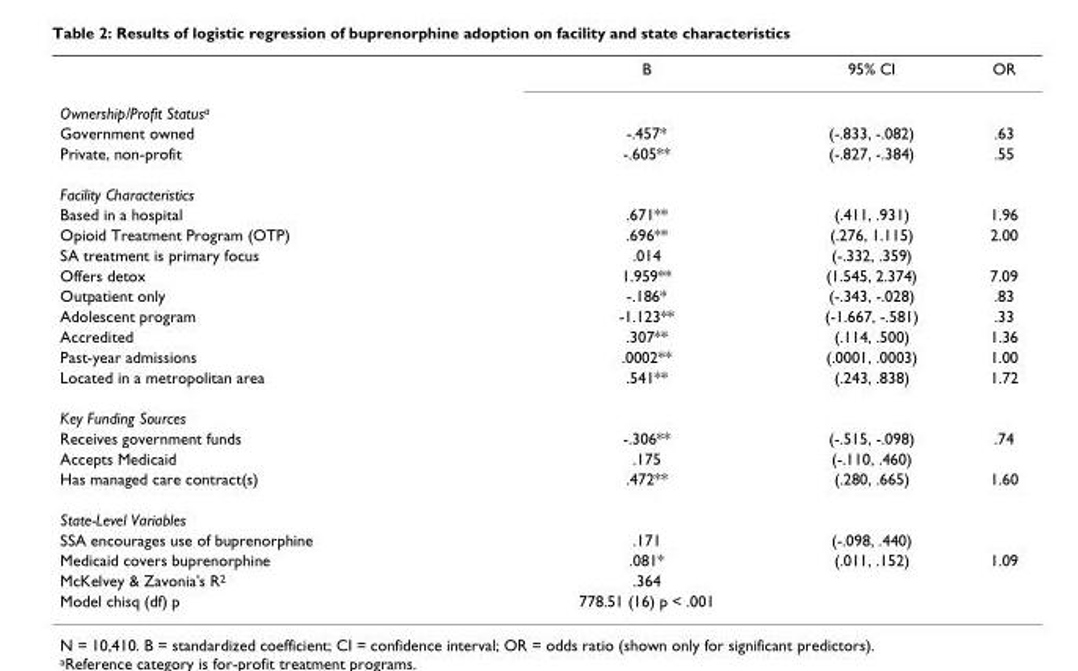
<table><thead><tr><td></td><td>B</td><td>95% CI</td><td>OR</td></tr></thead><tbody><tr><td colspan="4">Ownership/Profit Status<sup>a</sup></td></tr><tr><td>Government owned</td><td>-.457*</td><td>(-.833, -.082)</td><td>.63</td></tr><tr><td>Private, non-profit</td><td>-.605**</td><td>(-.827, -.384)</td><td>.55</td></tr><tr><td colspan="4">Facility Characteristics</td></tr><tr><td>Based in a hospital</td><td>.671**</td><td>(.411, .931)</td><td>1.96</td></tr><tr><td>Opioid Treatment Program (OTP)</td><td>.696**</td><td>(.276, 1.115)</td><td>2.00</td></tr><tr><td>SA treatment is primary focus</td><td>.014</td><td>(-.332, .359)</td><td></td></tr><tr><td>Offers detox</td><td>1.959**</td><td>(1.545, 2.374)</td><td>7.09</td></tr><tr><td>Outpatient only</td><td>-.186*</td><td>(-.343, -.028)</td><td>.83</td></tr><tr><td>Adolescent program</td><td>-1.123**</td><td>(-1.667, -.581)</td><td>.33</td></tr><tr><td>Accredited</td><td>.307**</td><td>(.114, .500)</td><td>1.36</td></tr><tr><td>Past-year admissions</td><td>.0002**</td><td>(.0001, .0003)</td><td>1.00</td></tr><tr><td>Located in a metropolitan area</td><td>.541**</td><td>(.243, .838)</td><td>1.72</td></tr><tr><td colspan="4">Key Funding Sources</td></tr><tr><td>Receives government funds</td><td>-.306**</td><td>(-.515, -.098)</td><td>.74</td></tr><tr><td>Accepts Medicaid</td><td>.175</td><td>(-.110, .460)</td><td></td></tr><tr><td>Has managed care contract(s)</td><td>.472**</td><td>(.280, .665)</td><td>1.60</td></tr><tr><td colspan="4">State-Level Variables</td></tr><tr><td>SSA encourages use of buprenorphine</td><td>.171</td><td>(-.098, .440)</td><td></td></tr><tr><td>Medicaid covers buprenorphine</td><td>.081*</td><td>(.011, .152)</td><td>1.09</td></tr><tr><td>McKelvey &amp; Zavonia&#x27;s R<sup>2</sup></td><td>.364</td><td></td><td></td></tr><tr><td>Model chisq (df) p</td><td>778.51 (16) p &lt; .001</td><td></td><td></td></tr></tbody></table>